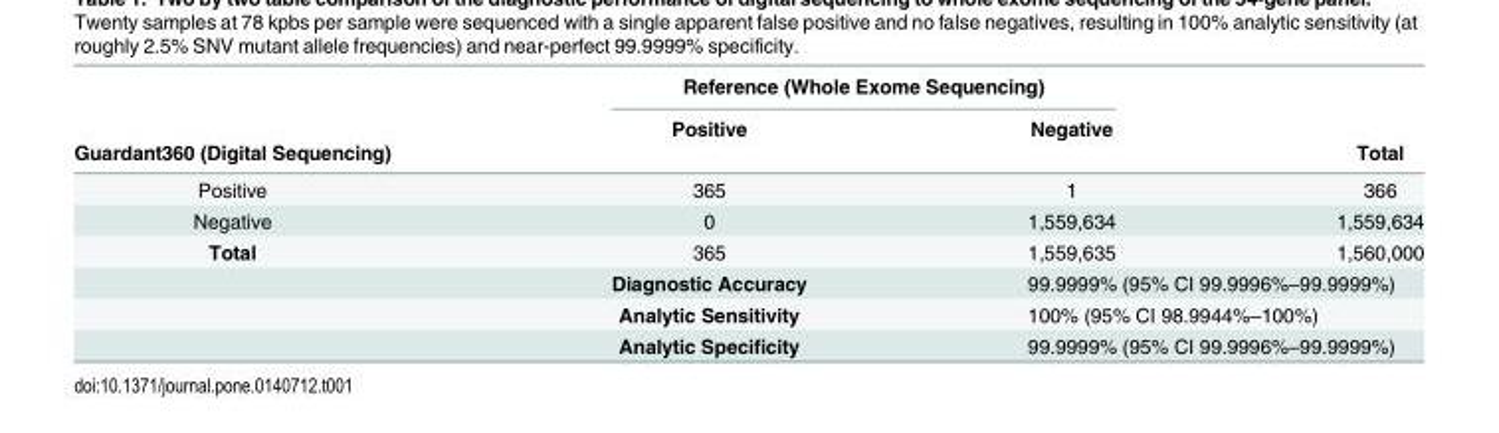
<table><thead><tr><td rowspan="3">Guardant360 (Digital Sequencing)</td><td colspan="2">Reference (Whole Exome Sequencing)</td><td rowspan="3">Total</td></tr><tr><td rowspan="2">Positive</td><td rowspan="2">Negative</td></tr><tr></tr></thead><tbody><tr><td>Positive</td><td>365</td><td>1</td><td>366</td></tr><tr><td>Negative</td><td>0</td><td>1,559,634</td><td>1,559,634</td></tr><tr><td rowspan="4">Total</td><td>365</td><td>1,559,635</td><td>1,560,000</td></tr><tr><td>Diagnostic Accuracy</td><td colspan="2">99.9999% (95% CI 99.9996%–99.9999%)</td></tr><tr><td>Analytic Sensitivity</td><td colspan="2">100% (95% CI 98.9944%–100%)</td></tr><tr><td>Analytic Specificity</td><td colspan="2">99.9999% (95% CI 99.9996%–99.9999%)</td></tr></tbody></table>